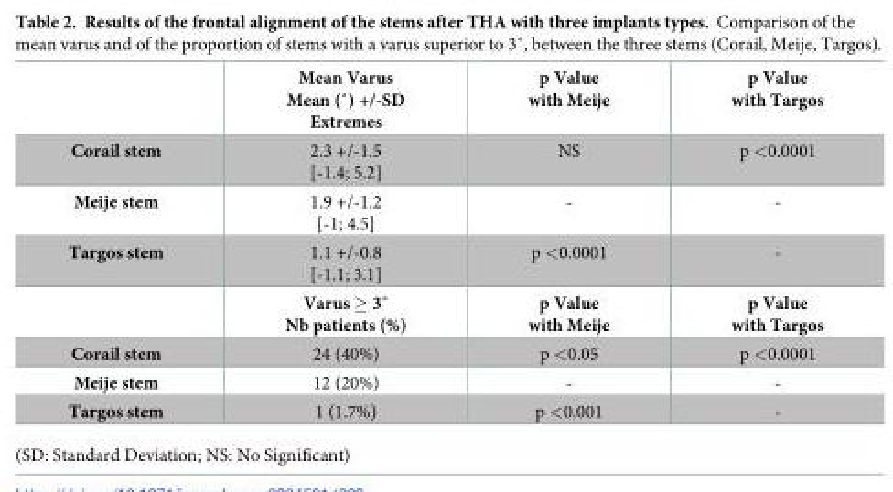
<table><thead><tr><td></td><td>Mean Varus Mean (˚) +/-SD Extremes</td><td>p Value with Meije</td><td>p Value with Targos</td></tr></thead><tbody><tr><td>Corail stem</td><td>2.3 +/-1.5 [-1.4; 5.2]</td><td>NS</td><td>p &lt;0.0001</td></tr><tr><td>Meije stem</td><td>1.9 +/-1.2 [-1; 4.5]</td><td>-</td><td>-</td></tr><tr><td rowspan="2">Targos stem</td><td>1.1 +/-0.8 [-1.1; 3.1]</td><td>p &lt;0.0001</td><td>-</td></tr><tr><td>Varus ≥ 3˚ Nb patients (%)</td><td>p Value with Meije</td><td>p Value with Targos</td></tr><tr><td>Corail stem</td><td>24 (40%)</td><td>p &lt;0.05</td><td>p &lt;0.0001</td></tr><tr><td>Meije stem</td><td>12 (20%)</td><td>-</td><td>-</td></tr><tr><td>Targos stem</td><td>1 (1.7%)</td><td>p &lt;0.001</td><td>-</td></tr></tbody></table>